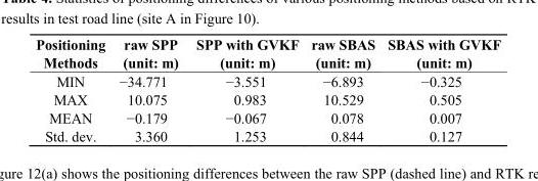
<table><thead><tr><td>Positioning Methods</td><td>raw SPP (unit: m)</td><td>SPP with GVKF (unit: m)</td><td>raw SBAS (unit: m)</td><td>SBAS with GVKF (unit: m)</td></tr></thead><tbody><tr><td>MIN</td><td>−34.771</td><td>−3.551</td><td>−6.893</td><td>−0.325</td></tr><tr><td>MAX</td><td>10.075</td><td>0.983</td><td>10.529</td><td>0.505</td></tr><tr><td>MEAN</td><td>−0.179</td><td>−0.067</td><td>0.078</td><td>0.007</td></tr><tr><td>Std. dev.</td><td>3.360</td><td>1.253</td><td>0.844</td><td>0.127</td></tr></tbody></table>